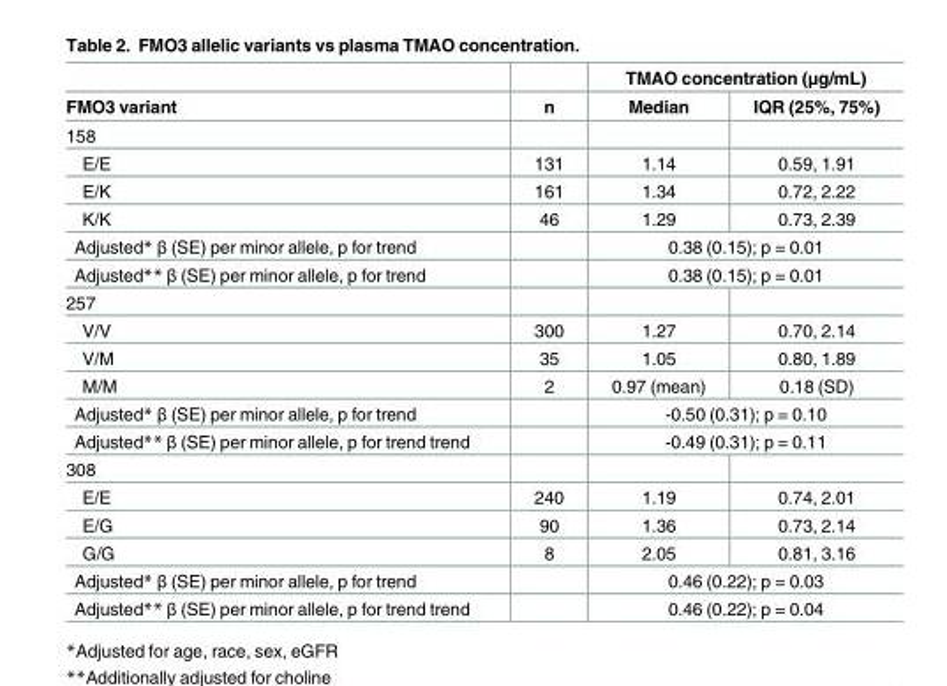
<table><thead><tr><td rowspan="2">FMO3 variant</td><td rowspan="2">n</td><td colspan="2">TMAO concentration (μg/mL)</td></tr><tr><td>Median</td><td>IQR (25%, 75%)</td></tr></thead><tbody><tr><td colspan="4">158</td></tr><tr><td>E/E</td><td>131</td><td>1.14</td><td>0.59, 1.91</td></tr><tr><td>E/K</td><td>161</td><td>1.34</td><td>0.72, 2.22</td></tr><tr><td>K/K</td><td>46</td><td>1.29</td><td>0.73, 2.39</td></tr><tr><td>Adjusted* β (SE) per minor allele, p for trend</td><td></td><td colspan="2">0.38 (0.15); p = 0.01</td></tr><tr><td>Adjusted** β (SE) per minor allele, p for trend</td><td></td><td colspan="2">0.38 (0.15); p = 0.01</td></tr><tr><td colspan="4">257</td></tr><tr><td>V/V</td><td>300</td><td>1.27</td><td>0.70, 2.14</td></tr><tr><td>V/M</td><td>35</td><td>1.05</td><td>0.80, 1.89</td></tr><tr><td>M/M</td><td>2</td><td>0.97 (mean)</td><td>0.18 (SD)</td></tr><tr><td>Adjusted* β (SE) per minor allele, p for trend</td><td></td><td colspan="2">-0.50 (0.31); p = 0.10</td></tr><tr><td>Adjusted** β (SE) per minor allele, p for trend trend</td><td></td><td colspan="2">-0.49 (0.31); p = 0.11</td></tr><tr><td colspan="4">308</td></tr><tr><td>E/E</td><td>240</td><td>1.19</td><td>0.74, 2.01</td></tr><tr><td>E/G</td><td>90</td><td>1.36</td><td>0.73, 2.14</td></tr><tr><td>G/G</td><td>8</td><td>2.05</td><td>0.81, 3.16</td></tr><tr><td>Adjusted* β (SE) per minor allele, p for trend</td><td></td><td colspan="2">0.46 (0.22); p = 0.03</td></tr><tr><td>Adjusted** β (SE) per minor allele, p for trend trend</td><td></td><td colspan="2">0.46 (0.22); p = 0.04</td></tr></tbody></table>